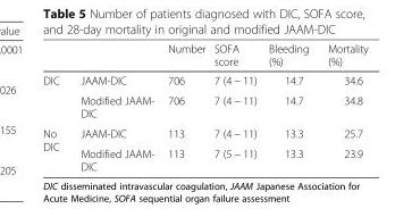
<table><thead><tr><td></td><td></td><td>Number</td><td>SOFA score</td><td>Bleeding (%)</td><td>Mortality (%)</td></tr></thead><tbody><tr><td rowspan="2">DIC</td><td>JAAM-DIC</td><td>706</td><td>7 (4 − 11)</td><td>14.7</td><td>34.6</td></tr><tr><td>Modified JAAM- DIC</td><td>706</td><td>7 (4 − 11)</td><td>14.7</td><td>34.8</td></tr><tr><td rowspan="2">No DIC</td><td>JAAM-DIC</td><td>113</td><td>7 (4 − 11)</td><td>13.3</td><td>25.7</td></tr><tr><td>Modified JAAM- DIC</td><td>113</td><td>7 (5 − 11)</td><td>13.3</td><td>23.9</td></tr></tbody></table>